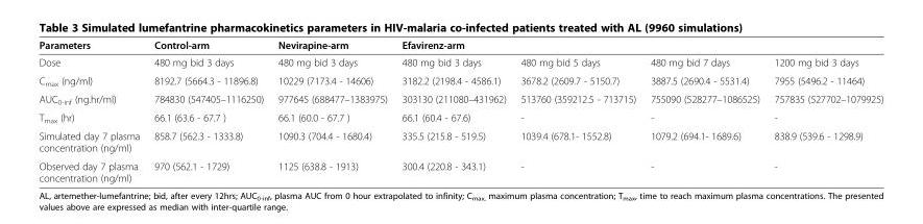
<table><thead><tr><td rowspan="2">Parameters Dose</td><td rowspan="2">Control-arm 480 mg bid 3 days</td><td rowspan="2">Nevirapine-arm 480 mg bid 3 days</td><td colspan="4">Efavirenz-arm</td></tr><tr><td>480 mg bid 3 days</td><td>480 mg bid 5 days</td><td>480 mg bid 7 days</td><td>1200 mg bid 3 days</td></tr></thead><tbody><tr><td>C<sub>max</sub> (ng/ml)</td><td>8192.7 (5664.3 - 11896.8)</td><td>10229 (7173.4 - 14606)</td><td>3182.2 (2198.4 - 4586.1)</td><td>3678.2 (2609.7 - 5150.7)</td><td>3887.5 (2690.4 - 5531.4)</td><td>7955 (5496.2 - 11464)</td></tr><tr><td>AUC<sub>0-inf</sub> (ng.hr/ml)</td><td>784830 (547405–1116250)</td><td>977645 (688477–1383975)</td><td>303130 (211080–431962)</td><td>513760 (359212.5 - 713715)</td><td>755090 (528277–1086525)</td><td>757835 (527702–1079925)</td></tr><tr><td>T<sub>max</sub> (hr)</td><td>66.1 (63.6 - 67.7 )</td><td>66.1 (60.0 - 67.7 )</td><td>66.1 (60.4 - 67.6)</td><td>-</td><td>-</td><td>-</td></tr><tr><td>Simulated day 7 plasma concentration (ng/ml)</td><td>858.7 (562.3 - 1333.8)</td><td>1090.3 (704.4 - 1680.4)</td><td>335.5 (215.8 - 519.5)</td><td>1039.4 (678.1- 1552.8)</td><td>1079.2 (694.1- 1689.6)</td><td>838.9 (539.6 - 1298.9)</td></tr><tr><td>Observed day 7 plasma concentration (ng/ml)</td><td>970 (562.1 - 1729)</td><td>1125 (638.8 - 1913)</td><td>300.4 (220.8 - 343.1)</td><td>-</td><td>-</td><td>-</td></tr></tbody></table>